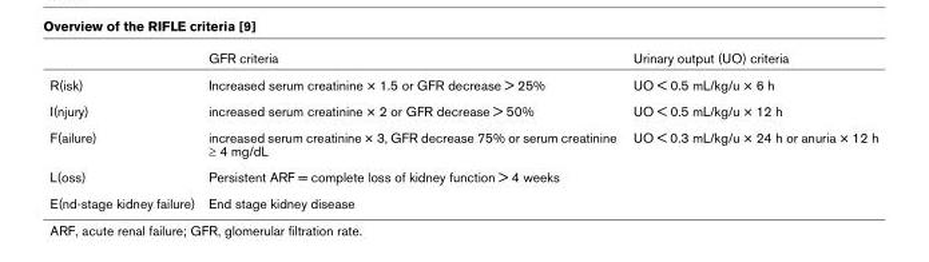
<table><thead><tr><td></td><td>GFR criteria</td><td>Urinary output (UO) criteria</td></tr></thead><tbody><tr><td>R(isk)</td><td>Increased serum creatinine × 1.5 or GFR decrease &gt; 25%</td><td>UO &lt; 0.5 mL/kg/u × 6 h</td></tr><tr><td>I(njury)</td><td>increased serum creatinine × 2 or GFR decrease &gt; 50%</td><td>UO &lt; 0.5 mL/kg/u × 12 h</td></tr><tr><td>F(ailure)</td><td>increased serum creatinine × 3, GFR decrease 75% or serum creatinine ≥ 4 mg/dL</td><td>UO &lt; 0.3 mL/kg/u × 24 h or anuria × 12 h</td></tr><tr><td>L(oss)</td><td>Persistent ARF = complete loss of kidney function &gt; 4 weeks</td><td></td></tr><tr><td>E(nd-stage kidney failure)</td><td>End stage kidney disease</td><td></td></tr></tbody></table>